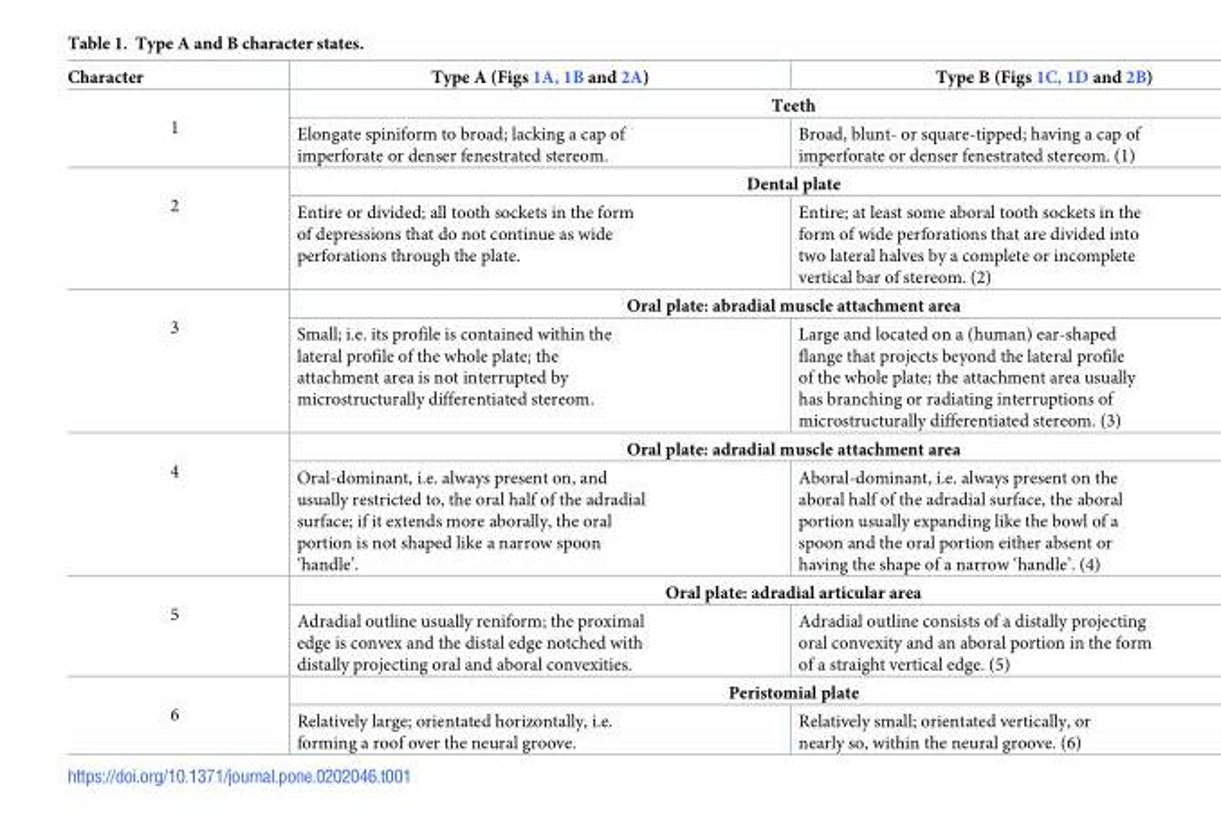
<table><thead><tr><td>Character</td><td>Type A (Figs 1A, 1B and 2A)</td><td>Type B (Figs 1C, 1D and 2B)</td></tr></thead><tbody><tr><td rowspan="2">1</td><td colspan="2">Teeth</td></tr><tr><td>Elongate spiniform to broad; lacking a cap of imperforate or denser fenestrated stereom.</td><td>Broad, blunt- or square-tipped; having a cap of imperforate or denser fenestrated stereom. (1)</td></tr><tr><td rowspan="2">2</td><td colspan="2">Dental plate</td></tr><tr><td>Entire or divided; all tooth sockets in the form of depressions that do not continue as wide perforations through the plate.</td><td>Entire; at least some aboral tooth sockets in the form of wide perforations that are divided into two lateral halves by a complete or incomplete vertical bar of stereom. (2)</td></tr><tr><td rowspan="2">3</td><td colspan="2">Oral plate: abradial muscle attachment area</td></tr><tr><td>Small; i.e. its profile is contained within the lateral profile of the whole plate; the attachment area is not interrupted by microstructurally differentiated stereom.</td><td>Large and located on a (human) ear-shaped flange that projects beyond the lateral profile of the whole plate; the attachment area usually has branching or radiating interruptions of microstructurally differentiated stereom. (3)</td></tr><tr><td rowspan="2">4</td><td colspan="2">Oral plate: adradial muscle attachment area</td></tr><tr><td>Oral-dominant, i.e. always present on, and usually restricted to, the oral half of the adradial surface; if it extends more aborally, the oral portion is not shaped like a narrow spoon ‘handle’.</td><td>Aboral-dominant, i.e. always present on the aboral half of the adradial surface, the aboral portion usually expanding like the bowl of a spoon and the oral portion either absent or having the shape of a narrow ‘handle’. (4)</td></tr><tr><td rowspan="2">5</td><td colspan="2">Oral plate: adradial articular area</td></tr><tr><td>Adradial outline usually reniform; the proximal edge is convex and the distal edge notched with distally projecting oral and aboral convexities.</td><td>Adradial outline consists of a distally projecting oral convexity and an aboral portion in the form of a straight vertical edge. (5)</td></tr><tr><td rowspan="2">6</td><td colspan="2">Peristomial plate</td></tr><tr><td>Relatively large; orientated horizontally, i.e. forming a roof over the neural groove.</td><td>Relatively small; orientated vertically, or nearly so, within the neural groove. (6)</td></tr></tbody></table>